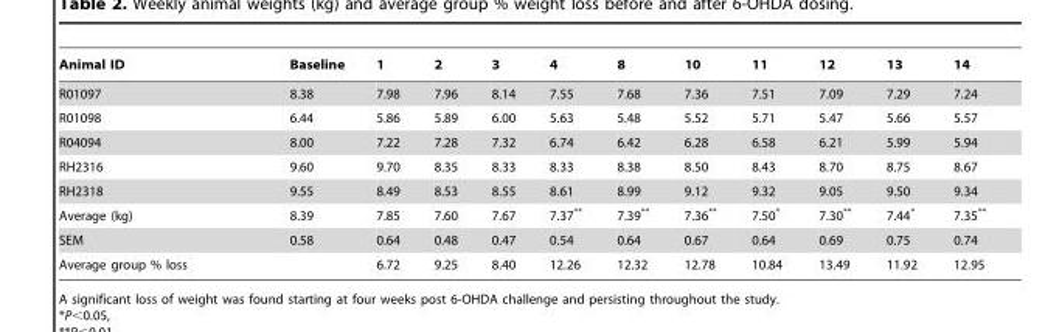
<table><thead><tr><td>Animal ID</td><td>Baseline</td><td>1</td><td>2</td><td>3</td><td>4</td><td>8</td><td>10</td><td>11</td><td>12</td><td>13</td><td>14</td></tr></thead><tbody><tr><td>R01097</td><td>8.38</td><td>7.98</td><td>7.96</td><td>8.14</td><td>7.55</td><td>7.68</td><td>7.36</td><td>7.51</td><td>7.09</td><td>7.29</td><td>7.24</td></tr><tr><td>R01098</td><td>6.44</td><td>5.86</td><td>5.89</td><td>6.00</td><td>5.63</td><td>5.48</td><td>5.52</td><td>5.71</td><td>5.47</td><td>5.66</td><td>5.57</td></tr><tr><td>R04094</td><td>8.00</td><td>7.22</td><td>7.28</td><td>7.32</td><td>6.74</td><td>6.42</td><td>6.28</td><td>6.58</td><td>6.21</td><td>5.99</td><td>5.94</td></tr><tr><td>RH2316</td><td>9.60</td><td>9.70</td><td>8.35</td><td>8.33</td><td>8.33</td><td>8.38</td><td>8.50</td><td>8.43</td><td>8.70</td><td>8.75</td><td>8.67</td></tr><tr><td>RH2318</td><td>9.55</td><td>8.49</td><td>8.53</td><td>8.55</td><td>8.61</td><td>8.99</td><td>9.12</td><td>9.32</td><td>9.05</td><td>9.50</td><td>9.34</td></tr><tr><td>Average (kg)</td><td>8.39</td><td>7.85</td><td>7.60</td><td>7.67</td><td>7.37**</td><td>7.39**</td><td>7.36**</td><td>7.50*</td><td>7.30**</td><td>7.44*</td><td>7.35**</td></tr><tr><td>SEM</td><td>0.58</td><td>0.64</td><td>0.48</td><td>0.47</td><td>0.54</td><td>0.64</td><td>0.67</td><td>0.64</td><td>0.69</td><td>0.75</td><td>0.74</td></tr><tr><td>Average group % loss</td><td></td><td>6.72</td><td>9.25</td><td>8.40</td><td>12.26</td><td>12.32</td><td>12.78</td><td>10.84</td><td>13.49</td><td>11.92</td><td>12.95</td></tr></tbody></table>